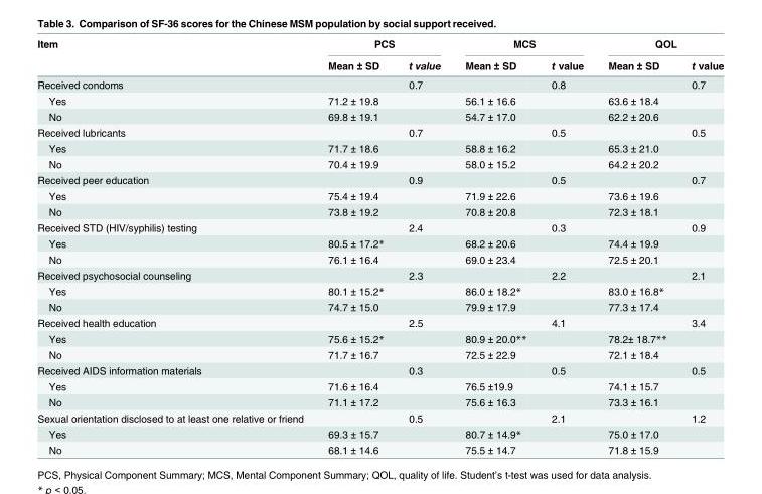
<table><thead><tr><td rowspan="2">Item</td><td colspan="2">PCS</td><td colspan="2">MCS</td><td colspan="2">QOL</td></tr><tr><td>Mean ± SD</td><td>t value</td><td>Mean ± SD</td><td>t value</td><td>Mean ± SD</td><td>t value</td></tr></thead><tbody><tr><td>Received condoms</td><td></td><td>0.7</td><td></td><td>0.8</td><td></td><td>0.7</td></tr><tr><td>Yes</td><td>71.2 ± 19.8</td><td></td><td>56.1 ± 16.6</td><td></td><td>63.6 ± 18.4</td><td></td></tr><tr><td>No</td><td>69.8 ± 19.1</td><td></td><td>54.7 ± 17.0</td><td></td><td>62.2 ± 20.6</td><td></td></tr><tr><td>Received lubricants</td><td></td><td>0.7</td><td></td><td>0.5</td><td></td><td>0.5</td></tr><tr><td>Yes</td><td>71.7 ± 18.6</td><td></td><td>58.8 ± 16.2</td><td></td><td>65.3 ± 21.0</td><td></td></tr><tr><td>No</td><td>70.4 ± 19.9</td><td></td><td>58.0 ± 15.2</td><td></td><td>64.2 ± 20.2</td><td></td></tr><tr><td>Received peer education</td><td></td><td>0.9</td><td></td><td>0.5</td><td></td><td>0.7</td></tr><tr><td>Yes</td><td>75.4 ± 19.4</td><td></td><td>71.9 ± 22.6</td><td></td><td>73.6 ± 19.6</td><td></td></tr><tr><td>No</td><td>73.8 ± 19.2</td><td></td><td>70.8 ± 20.8</td><td></td><td>72.3 ± 18.1</td><td></td></tr><tr><td>Received STD (HIV/syphilis) testing</td><td></td><td>2.4</td><td></td><td>0.3</td><td></td><td>0.9</td></tr><tr><td>Yes</td><td>80.5 ± 17.2*</td><td></td><td>68.2 ± 20.6</td><td></td><td>74.4 ± 19.9</td><td></td></tr><tr><td>No</td><td>76.1 ± 16.4</td><td></td><td>69.0 ± 23.4</td><td></td><td>72.5 ± 20.1</td><td></td></tr><tr><td>Received psychosocial counseling</td><td></td><td>2.3</td><td></td><td>2.2</td><td></td><td>2.1</td></tr><tr><td>Yes</td><td>80.1 ± 15.2*</td><td></td><td>86.0 ± 18.2*</td><td></td><td>83.0 ± 16.8*</td><td></td></tr><tr><td>No</td><td>74.7 ± 15.0</td><td></td><td>79.9 ± 17.9</td><td></td><td>77.3 ± 17.4</td><td></td></tr><tr><td>Received health education</td><td></td><td>2.5</td><td></td><td>4.1</td><td></td><td>3.4</td></tr><tr><td>Yes</td><td>75.6 ± 15.2*</td><td></td><td>80.9 ± 20.0**</td><td></td><td>78.2± 18.7**</td><td></td></tr><tr><td>No</td><td>71.7 ± 16.7</td><td></td><td>72.5 ± 22.9</td><td></td><td>72.1 ± 18.4</td><td></td></tr><tr><td>Received AIDS information materials</td><td></td><td>0.3</td><td></td><td>0.5</td><td></td><td>0.5</td></tr><tr><td>Yes</td><td>71.6 ± 16.4</td><td></td><td>76.5 ±19.9</td><td></td><td>74.1 ± 15.7</td><td></td></tr><tr><td>No</td><td>71.1 ± 17.2</td><td></td><td>75.6 ± 16.3</td><td></td><td>73.3 ± 16.1</td><td></td></tr><tr><td>Sexual orientation disclosed to at least one relative or friend</td><td></td><td>0.5</td><td></td><td>2.1</td><td></td><td>1.2</td></tr><tr><td>Yes</td><td>69.3 ± 15.7</td><td></td><td>80.7 ± 14.9*</td><td></td><td>75.0 ± 17.0</td><td></td></tr><tr><td>No</td><td>68.1 ± 14.6</td><td></td><td>75.5 ± 14.7</td><td></td><td>71.8 ± 15.9</td><td></td></tr></tbody></table>